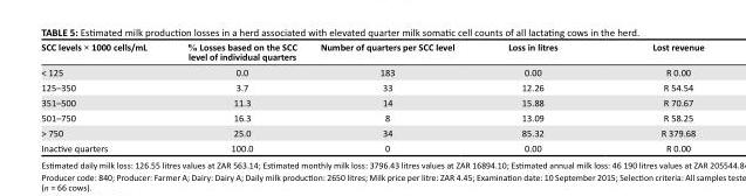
<table><thead><tr><td>SCC levels × 1000 cells/mL</td><td>% Losses based on the SCC level of individual quarters</td><td>Number of quarters per SCC level</td><td>Loss in litres</td><td>Lost revenue</td></tr></thead><tbody><tr><td>&lt; 125</td><td>0.0</td><td>183</td><td>0.00</td><td>R 0.00</td></tr><tr><td>125–350</td><td>3.7</td><td>33</td><td>12.26</td><td>R 54.54</td></tr><tr><td>351–500</td><td>11.3</td><td>14</td><td>15.88</td><td>R 70.67</td></tr><tr><td>501–750</td><td>16.3</td><td>8</td><td>13.09</td><td>R 58.25</td></tr><tr><td>&gt; 750</td><td>25.0</td><td>34</td><td>85.32</td><td>R 379.68</td></tr><tr><td>Inactive quarters</td><td>100.0</td><td>0</td><td>0.00</td><td>R 0.00</td></tr></tbody></table>